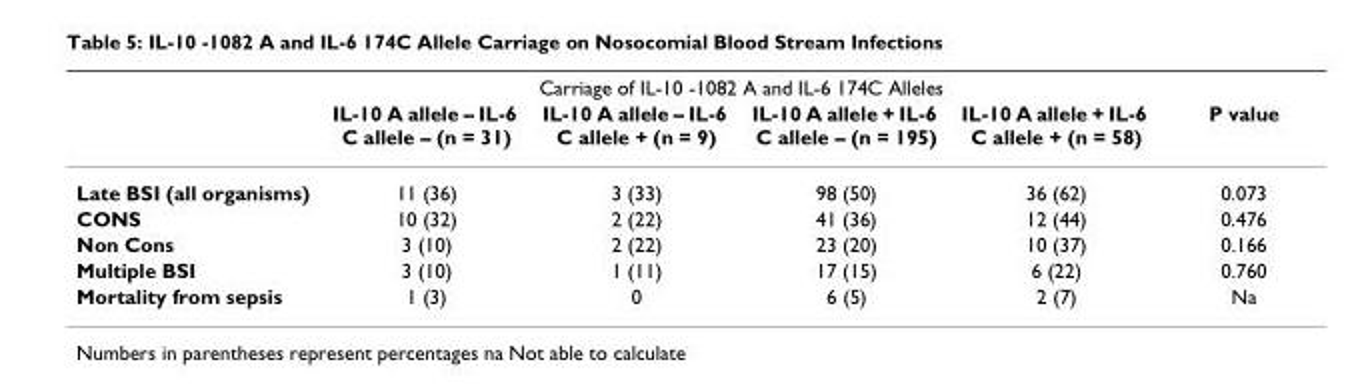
<table><thead><tr><td rowspan="2"></td><td colspan="4">Carriage of IL-10 -1082 A and IL-6 174C Alleles</td><td rowspan="2">P value</td></tr><tr><td>IL-10 A allele – IL-6 C allele – (n = 31)</td><td>IL-10 A allele – IL-6 C allele + (n = 9)</td><td>IL-10 A allele + IL-6 C allele – (n = 195)</td><td>IL-10 A allele + IL-6 C allele + (n = 58)</td></tr></thead><tbody><tr><td>Late BSI (all organisms)</td><td>11 (36)</td><td>3 (33)</td><td>98 (50)</td><td>36 (62)</td><td>0.073</td></tr><tr><td>CONS</td><td>10 (32)</td><td>2 (22)</td><td>41 (36)</td><td>12 (44)</td><td>0.476</td></tr><tr><td>Non Cons</td><td>3 (10)</td><td>2 (22)</td><td>23 (20)</td><td>10 (37)</td><td>0.166</td></tr><tr><td>Multiple BSI</td><td>3 (10)</td><td>1 (11)</td><td>17 (15)</td><td>6 (22)</td><td>0.760</td></tr><tr><td>Mortality from sepsis</td><td>1 (3)</td><td>0</td><td>6 (5)</td><td>2 (7)</td><td>Na</td></tr></tbody></table>